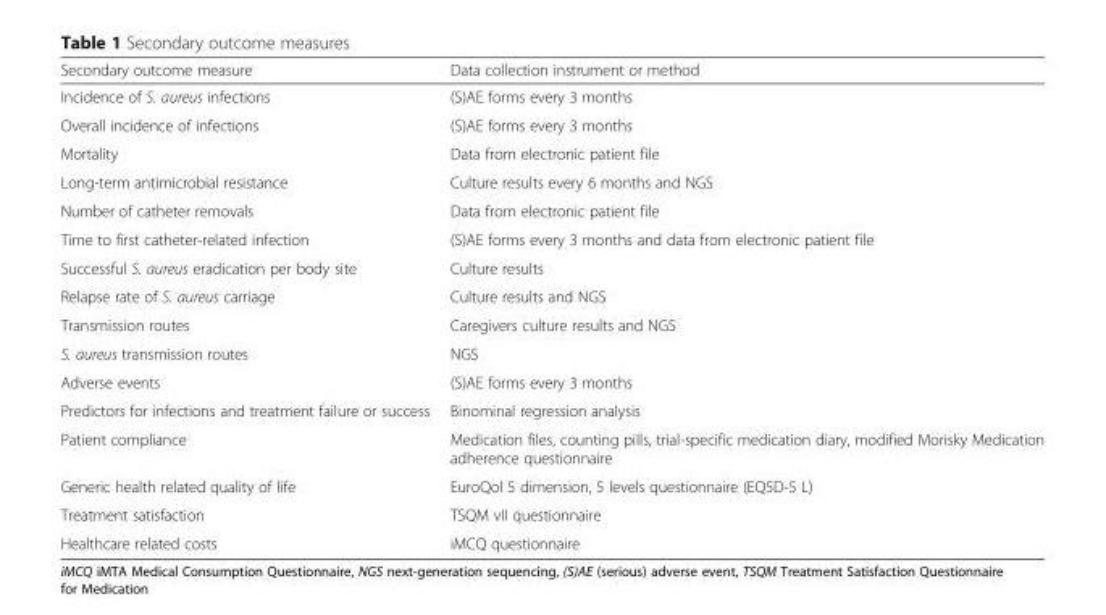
<table><thead><tr><td>Secondary outcome measure</td><td>Data collection instrument or method</td></tr></thead><tbody><tr><td>Incidence of S. aureus infections</td><td>(S)AE forms every 3 months</td></tr><tr><td>Overall incidence of infections</td><td>(S)AE forms every 3 months</td></tr><tr><td>Mortality</td><td>Data from electronic patient file</td></tr><tr><td>Long-term antimicrobial resistance</td><td>Culture results every 6 months and NGS</td></tr><tr><td>Number of catheter removals</td><td>Data from electronic patient file</td></tr><tr><td>Time to first catheter-related infection</td><td>(S)AE forms every 3 months and data from electronic patient file</td></tr><tr><td>Successful S. aureus eradication per body site</td><td>Culture results</td></tr><tr><td>Relapse rate of S. aureus carriage</td><td>Culture results and NGS</td></tr><tr><td>Transmission routes</td><td>Caregivers culture results and NGS</td></tr><tr><td>S. aureus transmission routes</td><td>NGS</td></tr><tr><td>Adverse events</td><td>(S)AE forms every 3 months</td></tr><tr><td>Predictors for infections and treatment failure or success</td><td>Binominal regression analysis</td></tr><tr><td>Patient compliance</td><td>Medication files, counting pills, trial-specific medication diary, modified Morisky Medication adherence questionnaire</td></tr><tr><td>Generic health related quality of life</td><td>EuroQol 5 dimension, 5 levels questionnaire (EQ5D-5 L)</td></tr><tr><td>Treatment satisfaction</td><td>TSQM vII questionnaire</td></tr><tr><td>Healthcare related costs</td><td>iMCQ questionnaire</td></tr></tbody></table>